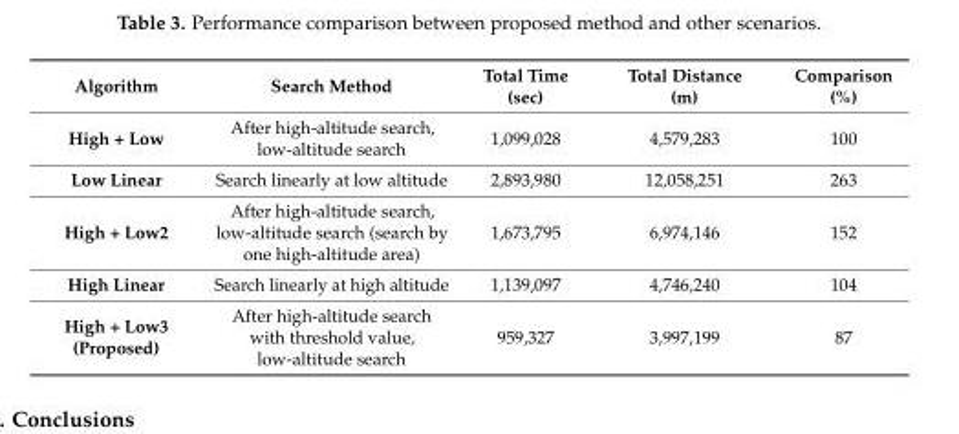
<table><thead><tr><td>Algorithm</td><td>Search Method</td><td>Total Time (sec)</td><td>Total Distance (m)</td><td>Comparison (%)</td></tr></thead><tbody><tr><td>High + Low</td><td>After high-altitude search, low-altitude search</td><td>1,099,028</td><td>4,579,283</td><td>100</td></tr><tr><td>Low Linear</td><td>Search linearly at low altitude</td><td>2,893,980</td><td>12,058,251</td><td>263</td></tr><tr><td>High + Low2</td><td>After high-altitude search, low-altitude search (search by one high-altitude area)</td><td>1,673,795</td><td>6,974,146</td><td>152</td></tr><tr><td>High Linear</td><td>Search linearly at high altitude</td><td>1,139,097</td><td>4,746,240</td><td>104</td></tr><tr><td>High + Low3 (Proposed)</td><td>After high-altitude search with threshold value, low-altitude search</td><td>959,327</td><td>3,997,199</td><td>87</td></tr></tbody></table>